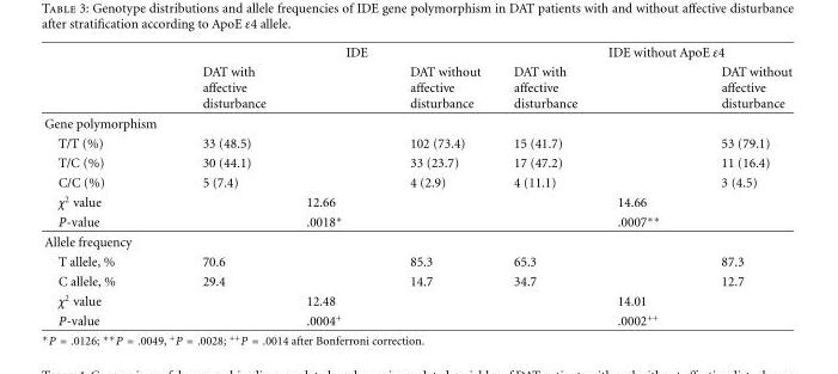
<table><thead><tr><td rowspan="2"></td><td colspan="3">IDE</td><td colspan="3">IDE without ApoE ε4</td></tr><tr><td>DAT with affective disturbance</td><td></td><td>DAT without affective disturbance</td><td>DAT with affective disturbance</td><td></td><td>DAT without affective disturbance</td></tr></thead><tbody><tr><td colspan="7">Gene polymorphism</td></tr><tr><td>T/T (%)</td><td>33 (48.5)</td><td></td><td>102 (73.4)</td><td>15 (41.7)</td><td></td><td>53 (79.1)</td></tr><tr><td>T/C (%)</td><td>30 (44.1)</td><td></td><td>33 (23.7)</td><td>17 (47.2)</td><td></td><td>11 (16.4)</td></tr><tr><td>C/C (%)</td><td>5 (7.4)</td><td></td><td>4 (2.9)</td><td>4 (11.1)</td><td></td><td>3 (4.5)</td></tr><tr><td>χ<sup>2</sup> value</td><td></td><td>12.66</td><td></td><td></td><td>14.66</td><td></td></tr><tr><td>P-value</td><td></td><td>.0018∗</td><td></td><td></td><td>.0007∗∗</td><td></td></tr><tr><td colspan="7">Allele frequency</td></tr><tr><td>T allele, %</td><td>70.6</td><td></td><td>85.3</td><td>65.3</td><td></td><td>87.3</td></tr><tr><td>C allele, %</td><td>29.4</td><td></td><td>14.7</td><td>34.7</td><td></td><td>12.7</td></tr><tr><td>χ<sup>2</sup> value</td><td></td><td>12.48</td><td></td><td></td><td>14.01</td><td></td></tr><tr><td>P-value</td><td></td><td>.0004<sup>+</sup></td><td></td><td></td><td>.0002<sup>++</sup></td><td></td></tr></tbody></table>